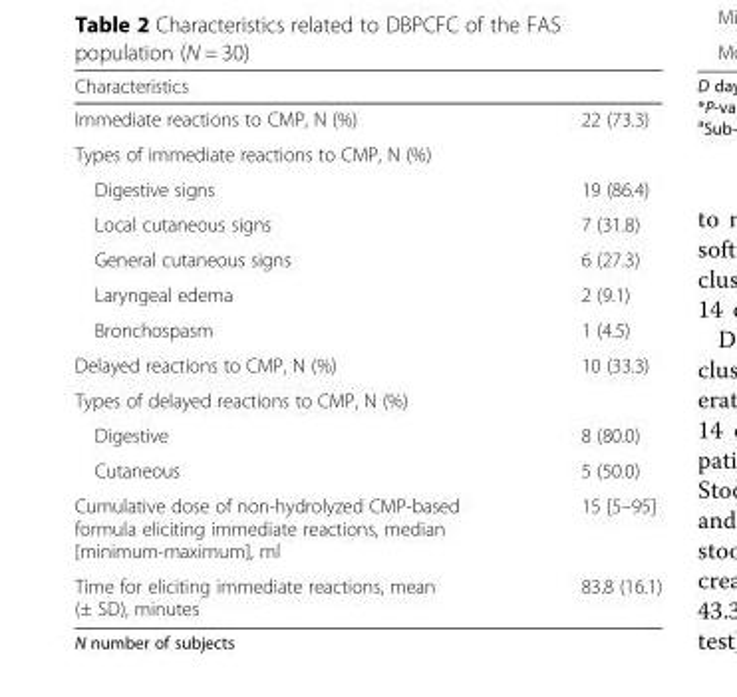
<table><thead><tr><td>Characteristics</td><td></td></tr></thead><tbody><tr><td>Immediate reactions to CMP, N (%)</td><td>22 (73.3)</td></tr><tr><td colspan="2">Types of immediate reactions to CMP, N (%)</td></tr><tr><td>Digestive signs</td><td>19 (86.4)</td></tr><tr><td>Local cutaneous signs</td><td>7 (31.8)</td></tr><tr><td>General cutaneous signs</td><td>6 (27.3)</td></tr><tr><td>Laryngeal edema</td><td>2 (9.1)</td></tr><tr><td>Bronchospasm</td><td>1 (4.5)</td></tr><tr><td>Delayed reactions to CMP, N (%)</td><td>10 (33.3)</td></tr><tr><td colspan="2">Types of delayed reactions to CMP, N (%)</td></tr><tr><td>Digestive</td><td>8 (80.0)</td></tr><tr><td>Cutaneous</td><td>5 (50.0)</td></tr><tr><td>Cumulative dose of non-hydrolyzed CMP-based formula eliciting immediate reactions, median [minimum-maximum], ml</td><td>15 [5–95]</td></tr><tr><td>Time for eliciting immediate reactions, mean (± SD), minutes</td><td>83.8 (16.1)</td></tr></tbody></table>